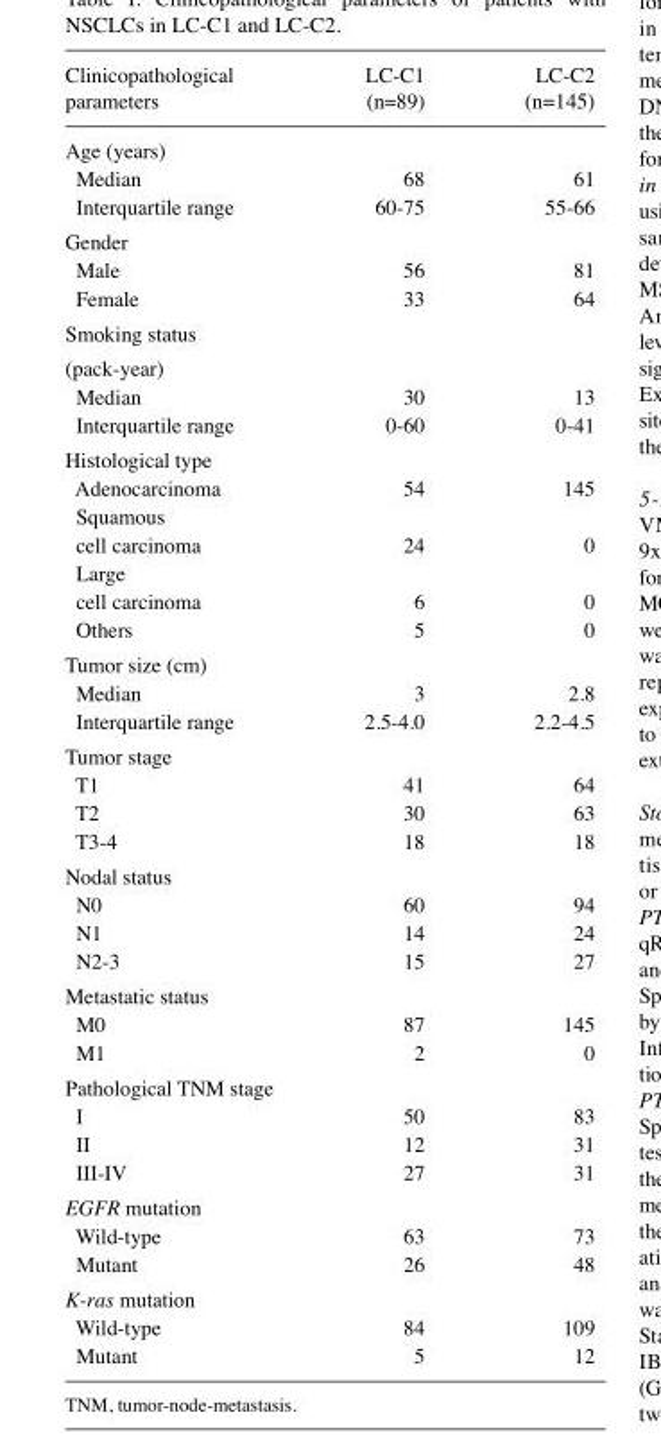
<table><thead><tr><td>Clinicopathological parameters</td><td>LC-C1 (n=89)</td><td>LC-C2 (n=145)</td></tr></thead><tbody><tr><td colspan="3">Age (years)</td></tr><tr><td>Median</td><td>68</td><td>61</td></tr><tr><td>interquartile range</td><td>60-75</td><td>55-66</td></tr><tr><td colspan="3">Gender</td></tr><tr><td>Male</td><td>56</td><td>81</td></tr><tr><td>Female</td><td>33</td><td>64</td></tr><tr><td colspan="3">Smoking status (pack-year)</td></tr><tr><td>Median</td><td>30</td><td>13</td></tr><tr><td>interquartile range</td><td>0-60</td><td>0-41</td></tr><tr><td colspan="3">Histological type</td></tr><tr><td>Adenocarcinoma</td><td>54</td><td>145</td></tr><tr><td>Squamous cell carcinoma</td><td>24</td><td>0</td></tr><tr><td>Large cell carcinoma</td><td>6</td><td>0</td></tr><tr><td>Others</td><td>5</td><td>0</td></tr><tr><td colspan="3">Tumor size (cm)</td></tr><tr><td>Median</td><td>3</td><td>2.8</td></tr><tr><td>interquartile range</td><td>2.5-4.0</td><td>2.2-4.5</td></tr><tr><td colspan="3">Tumor stage</td></tr><tr><td>T1</td><td>41</td><td>64</td></tr><tr><td>T2</td><td>30</td><td>63</td></tr><tr><td>T3-4</td><td>18</td><td>18</td></tr><tr><td colspan="3">Nodal status</td></tr><tr><td>N0</td><td>60</td><td>94</td></tr><tr><td>N1</td><td>14</td><td>24</td></tr><tr><td>N2-3</td><td>15</td><td>27</td></tr><tr><td colspan="3">Metastatic status</td></tr><tr><td>M0</td><td>87</td><td>145</td></tr><tr><td>M1</td><td>2</td><td>0</td></tr><tr><td colspan="3">Pathological TNM stage</td></tr><tr><td>i</td><td>50</td><td>83</td></tr><tr><td>ii</td><td>12</td><td>31</td></tr><tr><td>III-IV</td><td>27</td><td>31</td></tr><tr><td colspan="3">EGFR mutation</td></tr><tr><td>Wild-type</td><td>63</td><td>73</td></tr><tr><td>Mutant</td><td>26</td><td>48</td></tr><tr><td colspan="3">K-ras mutation</td></tr><tr><td>Wild-type</td><td>84</td><td>109</td></tr><tr><td>Mutant</td><td>5</td><td>12</td></tr></tbody></table>